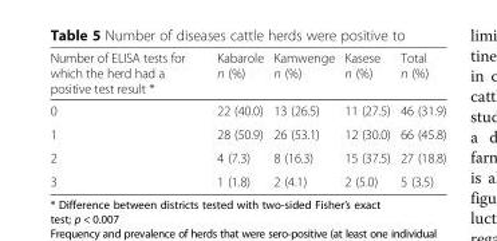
<table><thead><tr><td>Number of ELISA tests for which the herd had a positive test result *</td><td>Kabarole n (%)</td><td>Kamwenge n (%)</td><td>Kasese n (%)</td><td>Total n (%)</td></tr></thead><tbody><tr><td>0</td><td>22 (40.0)</td><td>13 (26.5)</td><td>11 (27.5)</td><td>46 (31.9)</td></tr><tr><td>1</td><td>28 (50.9)</td><td>26 (53.1)</td><td>12 (30.0)</td><td>66 (45.8)</td></tr><tr><td>2</td><td>4 (7.3)</td><td>8 (16.3)</td><td>15 (37.5)</td><td>27 (18.8)</td></tr><tr><td>3</td><td>1 (1.8)</td><td>2 (4.1)</td><td>2 (5.0)</td><td>5 (3.5)</td></tr></tbody></table>